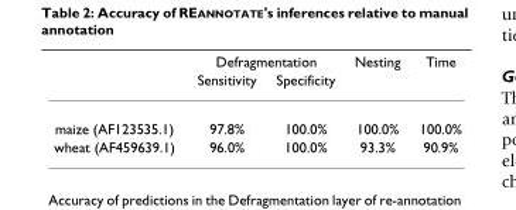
<table><thead><tr><td rowspan="2"></td><td colspan="2">Defragmentation</td><td rowspan="2">Nesting</td><td rowspan="2">Time</td></tr><tr><td>Sensitivity</td><td>Specificity</td></tr></thead><tbody><tr><td>maize (AF123535.1)</td><td>97.8%</td><td>100.0%</td><td>100.0%</td><td>100.0%</td></tr><tr><td>wheat (AF459639.1)</td><td>96.0%</td><td>100.0%</td><td>93.3%</td><td>90.9%</td></tr></tbody></table>